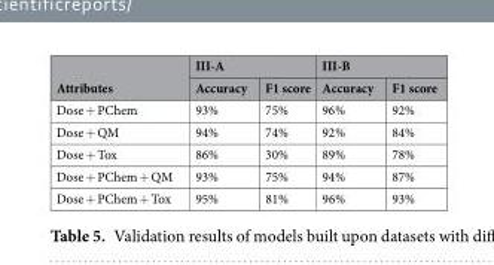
<table><thead><tr><td rowspan="2">Attributes</td><td colspan="2">III-A</td><td colspan="2">III-B</td></tr><tr><td>Accuracy</td><td>F1 score</td><td>Accuracy</td><td>F1 score</td></tr></thead><tbody><tr><td>Dose + PChem</td><td>93%</td><td>75%</td><td>96%</td><td>92%</td></tr><tr><td>Dose + QM</td><td>94%</td><td>74%</td><td>92%</td><td>84%</td></tr><tr><td>Dose + Tox</td><td>86%</td><td>30%</td><td>89%</td><td>78%</td></tr><tr><td>Dose + PChem + QM</td><td>93%</td><td>75%</td><td>94%</td><td>87%</td></tr><tr><td>Dose + PChem + Tox</td><td>95%</td><td>81%</td><td>96%</td><td>93%</td></tr></tbody></table>